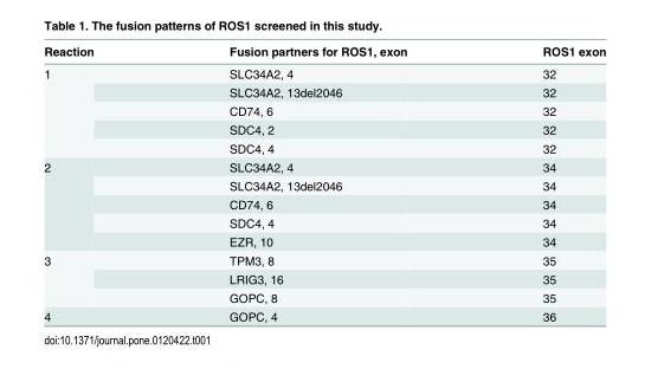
<table><thead><tr><td>Reaction</td><td>Fusion partners for ROS1, exon</td><td>ROS1 exon</td></tr></thead><tbody><tr><td rowspan="5">1</td><td>SLC34A2, 4</td><td>32</td></tr><tr><td>SLC34A2, 13del2046</td><td>32</td></tr><tr><td>CD74, 6</td><td>32</td></tr><tr><td>SDC4, 2</td><td>32</td></tr><tr><td>SDC4, 4</td><td>32</td></tr><tr><td rowspan="5">2</td><td>SLC34A2, 4</td><td>34</td></tr><tr><td>SLC34A2, 13del2046</td><td>34</td></tr><tr><td>CD74, 6</td><td>34</td></tr><tr><td>SDC4, 4</td><td>34</td></tr><tr><td>EZR, 10</td><td>34</td></tr><tr><td rowspan="3">3</td><td>TPM3, 8</td><td>35</td></tr><tr><td>LRIG3, 16</td><td>35</td></tr><tr><td>GOPC, 8</td><td>35</td></tr><tr><td>4</td><td>GOPC, 4</td><td>36</td></tr></tbody></table>